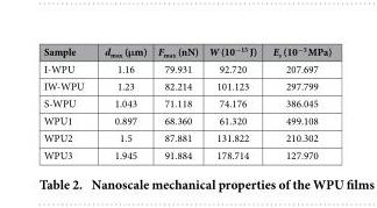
<table><thead><tr><td>Sample</td><td>d<sub>max</sub> (μm)</td><td>F<sub>max</sub> (nN)</td><td>W (10<sup>−15</sup> J)</td><td>E<sub>s</sub> (10<sup>−3</sup> MPa)</td></tr></thead><tbody><tr><td>I-WPU</td><td>1.16</td><td>79.931</td><td>92.720</td><td>207.697</td></tr><tr><td>IW-WPU</td><td>1.23</td><td>82.214</td><td>101.123</td><td>297.799</td></tr><tr><td>S-WPU</td><td>1.043</td><td>71.118</td><td>74.176</td><td>386.045</td></tr><tr><td>WPU1</td><td>0.897</td><td>68.360</td><td>61.320</td><td>499.108</td></tr><tr><td>WPU2</td><td>1.5</td><td>87.881</td><td>131.822</td><td>210.302</td></tr><tr><td>WPU3</td><td>1.945</td><td>91.884</td><td>178.714</td><td>127.970</td></tr></tbody></table>